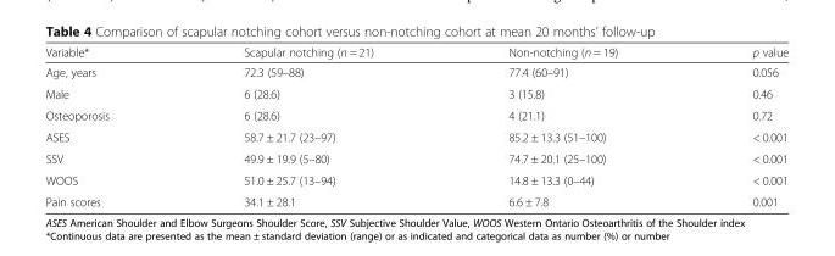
<table><thead><tr><td>Variable*</td><td>Scapular notching (n = 21)</td><td>Non-notching (n = 19)</td><td>p value</td></tr></thead><tbody><tr><td>Age, years</td><td>72.3 (59–88)</td><td>77.4 (60–91)</td><td>0.056</td></tr><tr><td>Male</td><td>6 (28.6)</td><td>3 (15.8)</td><td>0.46</td></tr><tr><td>Osteoporosis</td><td>6 (28.6)</td><td>4 (21.1)</td><td>0.72</td></tr><tr><td>ASES</td><td>58.7 ± 21.7 (23–97)</td><td>85.2 ± 13.3 (51–100)</td><td>&lt; 0.001</td></tr><tr><td>SSV</td><td>49.9 ± 19.9 (5–80)</td><td>74.7 ± 20.1 (25–100)</td><td>&lt; 0.001</td></tr><tr><td>WOOS</td><td>51.0 ± 25.7 (13–94)</td><td>14.8 ± 13.3 (0–44)</td><td>&lt; 0.001</td></tr><tr><td>Pain scores</td><td>34.1 ± 28.1</td><td>6.6 ± 7.8</td><td>0.001</td></tr></tbody></table>